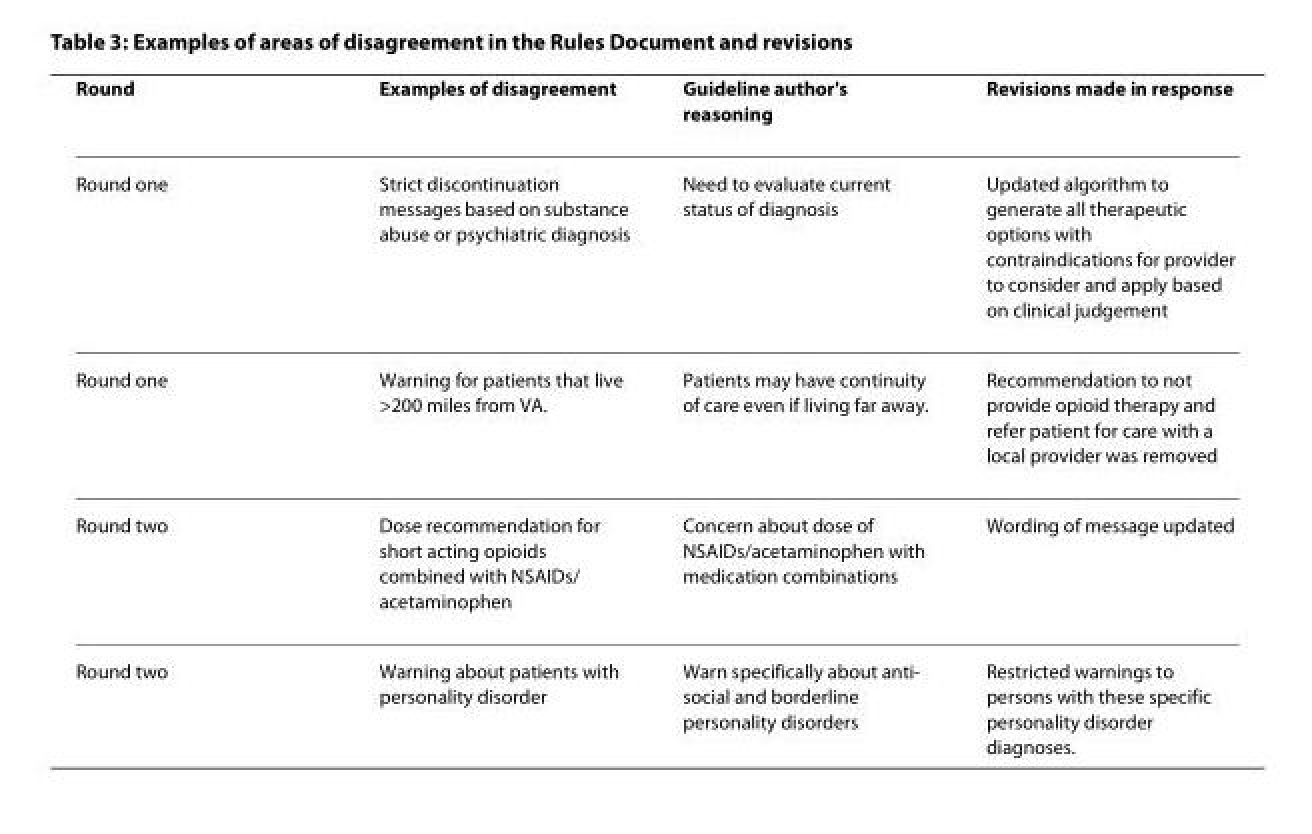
<table><thead><tr><td>Round</td><td>Examples of disagreement</td><td>Guideline author&#x27;s reasoning</td><td>Revisions made in response</td></tr></thead><tbody><tr><td>Round one</td><td>Strict discontinuation messages based on substance abuse or psychiatric diagnosis</td><td>Need to evaluate current status of diagnosis</td><td>Updated algorithm to generate all therapeutic options with contraindications for provider to consider and apply based on clinical judgement</td></tr><tr><td>Round one</td><td>Warning for patients that live &gt;200 miles from VA.</td><td>Patients may have continuity of care even if living far away.</td><td>Recommendation to not provide opioid therapy and refer patient for care with a local provider was removed</td></tr><tr><td>Round two</td><td>Dose recommendation for short acting opioids combined with NSAIDs/ acetaminophen</td><td>Concern about dose of NSAIDs/acetaminophen with medication combinations</td><td>Wording of message updated</td></tr><tr><td>Round two</td><td>Warning about patients with personality disorder</td><td>Warn specifically about anti- social and borderline personality disorders</td><td>Restricted warnings to persons with these specific personality disorder diagnoses.</td></tr></tbody></table>